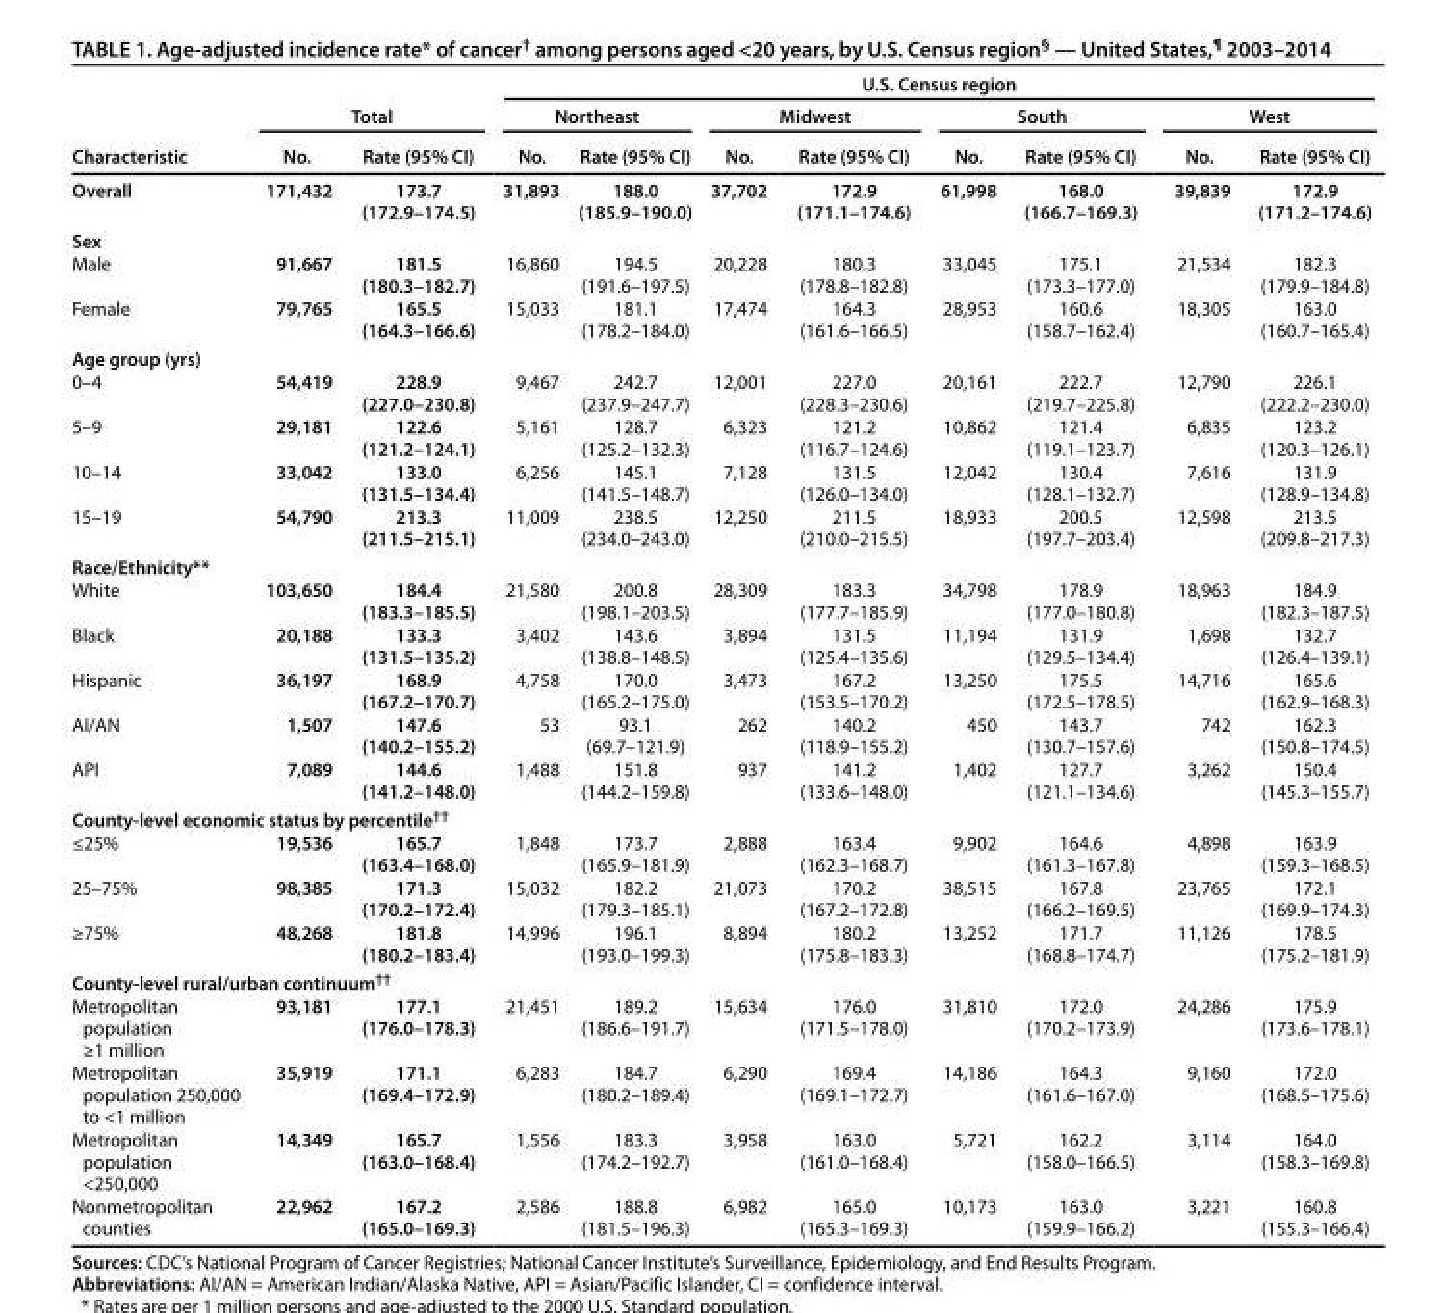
<table><thead><tr><td colspan="11">U.S. Census region</td></tr><tr><td colspan="3">Total</td><td colspan="2">Northeast</td><td colspan="2">Midwest</td><td colspan="2">South</td><td colspan="2">West</td></tr><tr><td>Characteristic</td><td>No.</td><td>Rate (95% CI)</td><td>No.</td><td>Rate (95% CI)</td><td>No.</td><td>Rate (95% CI)</td><td>No.</td><td>Rate (95% CI)</td><td>No.</td><td>Rate (95% CI)</td></tr></thead><tbody><tr><td>Overall</td><td>171,432</td><td>173.7 (172.9–174.5)</td><td>31,893</td><td>188.0 (185.9–190.0)</td><td>37,702</td><td>172.9 (171.1–174.6)</td><td>61,998</td><td>168.0 (166.7–169.3)</td><td>39,839</td><td>172.9 (171.2–174.6)</td></tr><tr><td colspan="11">Sex</td></tr><tr><td>Male</td><td>91,667</td><td>181.5 (180.3–182.7)</td><td>16,860</td><td>194.5 (191.6–197.5)</td><td>20,228</td><td>180.3 (178.8–182.8)</td><td>33,045</td><td>175.1 (173.3–177.0)</td><td>21,534</td><td>182.3 (179.9–184.8)</td></tr><tr><td>Female</td><td>79,765</td><td>165.5 (164.3–166.6)</td><td>15,033</td><td>181.1 (178.2–184.0)</td><td>17,474</td><td>164.3 (161.6–166.5)</td><td>28,953</td><td>160.6 (158.7–162.4)</td><td>18,305</td><td>163.0 (160.7–165.4)</td></tr><tr><td colspan="11">Age group (yrs)</td></tr><tr><td>0–4</td><td>54,419</td><td>228.9 (227.0–230.8)</td><td>9,467</td><td>242.7 (237.9–247.7)</td><td>12,001</td><td>227.0 (228.3–230.6)</td><td>20,161</td><td>222.7 (219.7–225.8)</td><td>12,790</td><td>226.1 (222.2–230.0)</td></tr><tr><td>5–9</td><td>29,181</td><td>122.6 (121.2–124.1)</td><td>5,161</td><td>128.7 (125.2–132.3)</td><td>6,323</td><td>121.2 (116.7–124.6)</td><td>10,862</td><td>121.4 (119.1–123.7)</td><td>6,835</td><td>123.2 (120.3–126.1)</td></tr><tr><td>10–14</td><td>33,042</td><td>133.0 (131.5–134.4)</td><td>6,256</td><td>145.1 (141.5–148.7)</td><td>7,128</td><td>131.5 (126.0–134.0)</td><td>12,042</td><td>130.4 (128.1–132.7)</td><td>7,616</td><td>131.9 (128.9–134.8)</td></tr><tr><td>15–19</td><td>54,790</td><td>213.3 (211.5–215.1)</td><td>11,009</td><td>238.5 (234.0–243.0)</td><td>12,250</td><td>211.5 (210.0–215.5)</td><td>18,933</td><td>200.5 (197.7–203.4)</td><td>12,598</td><td>213.5 (209.8–217.3)</td></tr><tr><td colspan="11">Race/Ethnicity**</td></tr><tr><td>White</td><td>103,650</td><td>184.4 (183.3–185.5)</td><td>21,580</td><td>200.8 (198.1–203.5)</td><td>28,309</td><td>183.3 (177.7–185.9)</td><td>34,798</td><td>178.9 (177.0–180.8)</td><td>18,963</td><td>184.9 (182.3–187.5)</td></tr><tr><td>Black</td><td>20,188</td><td>133.3 (131.5–135.2)</td><td>3,402</td><td>143.6 (138.8–148.5)</td><td>3,894</td><td>131.5 (125.4–135.6)</td><td>11,194</td><td>131.9 (129.5–134.4)</td><td>1,698</td><td>132.7 (126.4–139.1)</td></tr><tr><td>Hispanic</td><td>36,197</td><td>168.9 (167.2–170.7)</td><td>4,758</td><td>170.0 (165.2–175.0)</td><td>3,473</td><td>167.2 (153.5–170.2)</td><td>13,250</td><td>175.5 (172.5–178.5)</td><td>14,716</td><td>165.6 (162.9–168.3)</td></tr><tr><td>AI/AN</td><td>1,507</td><td>147.6 (140.2–155.2)</td><td>53</td><td>93.1 (69.7–121.9)</td><td>262</td><td>140.2 (118.9–155.2)</td><td>450</td><td>143.7 (130.7–157.6)</td><td>742</td><td>162.3 (150.8–174.5)</td></tr><tr><td>API</td><td>7,089</td><td>144.6 (141.2–148.0)</td><td>1,488</td><td>151.8 (144.2–159.8)</td><td>937</td><td>141.2 (133.6–148.0)</td><td>1,402</td><td>127.7 (121.1–134.6)</td><td>3,262</td><td>150.4 (145.3–155.7)</td></tr><tr><td colspan="11">County-level economic status by percentile††</td></tr><tr><td>≤25%</td><td>19,536</td><td>165.7 (163.4–168.0)</td><td>1,848</td><td>173.7 (165.9–181.9)</td><td>2,888</td><td>163.4 (162.3–168.7)</td><td>9,902</td><td>164.6 (161.3–167.8)</td><td>4,898</td><td>163.9 (159.3–168.5)</td></tr><tr><td>25–75%</td><td>98,385</td><td>171.3 (170.2–172.4)</td><td>15,032</td><td>182.2 (179.3–185.1)</td><td>21,073</td><td>170.2 (167.2–172.8)</td><td>38,515</td><td>167.8 (166.2–169.5)</td><td>23,765</td><td>172.1 (169.9–174.3)</td></tr><tr><td>≥75%</td><td>48,268</td><td>181.8 (180.2–183.4)</td><td>14,996</td><td>196.1 (193.0–199.3)</td><td>8,894</td><td>180.2 (175.8–183.3)</td><td>13,252</td><td>171.7 (168.8–174.7)</td><td>11,126</td><td>178.5 (175.2–181.9)</td></tr><tr><td colspan="11">County-level rural/urban continuum††</td></tr><tr><td>Metropolitan population ≥1 million</td><td>93,181</td><td>177.1 (176.0–178.3)</td><td>21,451</td><td>189.2 (186.6–191.7)</td><td>15,634</td><td>176.0 (171.5–178.0)</td><td>31,810</td><td>172.0 (170.2–173.9)</td><td>24,286</td><td>175.9 (173.6–178.1)</td></tr><tr><td>Metropolitan population 250,000 to &lt;1 million</td><td>35,919</td><td>171.1 (169.4–172.9)</td><td>6,283</td><td>184.7 (180.2–189.4)</td><td>6,290</td><td>169.4 (169.1–172.7)</td><td>14,186</td><td>164.3 (161.6–167.0)</td><td>9,160</td><td>172.0 (168.5–175.6)</td></tr><tr><td>Metropolitan population &lt;250,000</td><td>14,349</td><td>165.7 (163.0–168.4)</td><td>1,556</td><td>183.3 (174.2–192.7)</td><td>3,958</td><td>163.0 (161.0–168.4)</td><td>5,721</td><td>162.2 (158.0–166.5)</td><td>3,114</td><td>164.0 (158.3–169.8)</td></tr><tr><td>Nonmetropolitan counties</td><td>22,962</td><td>167.2 (165.0–169.3)</td><td>2,586</td><td>188.8 (181.5–196.3)</td><td>6,982</td><td>165.0 (165.3–169.3)</td><td>10,173</td><td>163.0 (159.9–166.2)</td><td>3,221</td><td>160.8 (155.3–166.4)</td></tr></tbody></table>